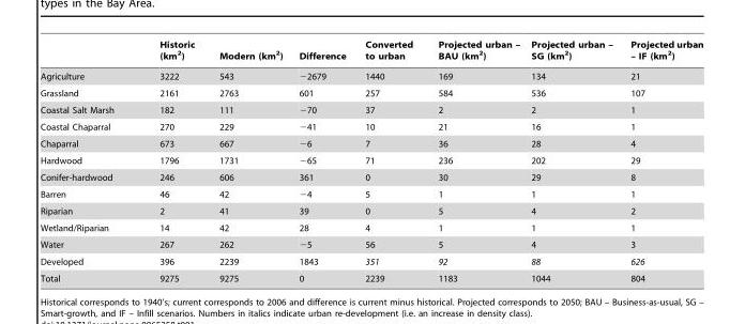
<table><thead><tr><td></td><td>Historic (km<sup>2</sup>)</td><td>Modern (km<sup>2</sup>)</td><td>Difference</td><td>Converted to urban</td><td>Projected urban – BAU (km<sup>2</sup>)</td><td>Projected urban – SG (km<sup>2</sup>)</td><td>Projected urban – IF (km<sup>2</sup>)</td></tr></thead><tbody><tr><td>Agriculture</td><td>3222</td><td>543</td><td>−2679</td><td>1440</td><td>169</td><td>134</td><td>21</td></tr><tr><td>Grassland</td><td>2161</td><td>2763</td><td>601</td><td>257</td><td>584</td><td>536</td><td>107</td></tr><tr><td>Coastal Salt Marsh</td><td>182</td><td>111</td><td>−70</td><td>37</td><td>2</td><td>2</td><td>1</td></tr><tr><td>Coastal Chaparral</td><td>270</td><td>229</td><td>−41</td><td>10</td><td>21</td><td>16</td><td>1</td></tr><tr><td>Chaparral</td><td>673</td><td>667</td><td>−6</td><td>7</td><td>36</td><td>28</td><td>4</td></tr><tr><td>Hardwood</td><td>1796</td><td>1731</td><td>−65</td><td>71</td><td>236</td><td>202</td><td>29</td></tr><tr><td>Conifer-hardwood</td><td>246</td><td>606</td><td>361</td><td>0</td><td>30</td><td>29</td><td>8</td></tr><tr><td>Barren</td><td>46</td><td>42</td><td>−4</td><td>5</td><td>1</td><td>1</td><td>1</td></tr><tr><td>Riparian</td><td>2</td><td>41</td><td>39</td><td>0</td><td>5</td><td>4</td><td>2</td></tr><tr><td>Wetland/Riparian</td><td>14</td><td>42</td><td>28</td><td>4</td><td>1</td><td>1</td><td>1</td></tr><tr><td>Water</td><td>267</td><td>262</td><td>−5</td><td>56</td><td>5</td><td>4</td><td>3</td></tr><tr><td>Developed</td><td>396</td><td>2239</td><td>1843</td><td>351</td><td>92</td><td>88</td><td>626</td></tr><tr><td>Total</td><td>9275</td><td>9275</td><td>0</td><td>2239</td><td>1183</td><td>1044</td><td>804</td></tr></tbody></table>